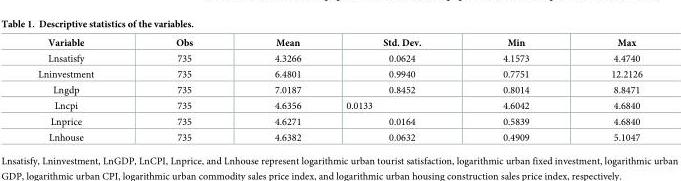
<table><thead><tr><td>Variable</td><td>Obs</td><td>Mean</td><td>Std. Dev.</td><td>Min</td><td>Max</td></tr></thead><tbody><tr><td>Lnsatisfy</td><td>735</td><td>4.3266</td><td>0.0624</td><td>4.1573</td><td>4.4740</td></tr><tr><td>Lninvestment</td><td>735</td><td>6.4801</td><td>0.9940</td><td>0.7751</td><td>12.2126</td></tr><tr><td>Lngdp</td><td>735</td><td>7.0187</td><td>0.8452</td><td>0.8014</td><td>8.8471</td></tr><tr><td>Lncpi</td><td>735</td><td>4.6356</td><td>0.0133</td><td>4.6042</td><td>4.6840</td></tr><tr><td>Lnprice</td><td>735</td><td>4.6271</td><td>0.0164</td><td>0.5839</td><td>4.6840</td></tr><tr><td>Lnhouse</td><td>735</td><td>4.6382</td><td>0.0632</td><td>0.4909</td><td>5.1047</td></tr></tbody></table>